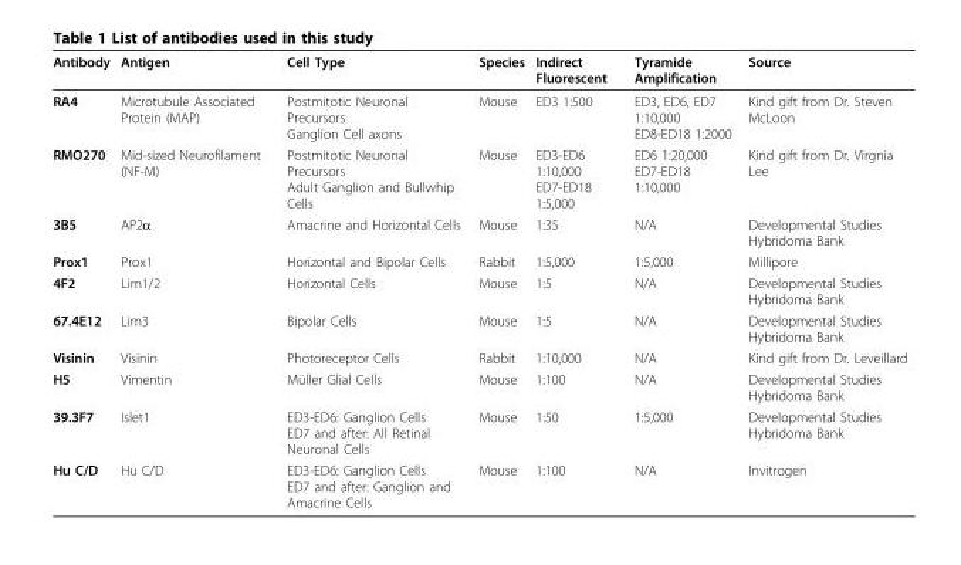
<table><thead><tr><td>Antibody</td><td>Antigen</td><td>Cell Type</td><td>Species</td><td>Indirect Fluorescent</td><td>Tyramide Amplification</td><td>Source</td></tr></thead><tbody><tr><td>RA4</td><td>Microtubule Associated Protein (MAP)</td><td>Postmitotic Neuronal Precursors Ganglion Cell axons</td><td>Mouse</td><td>ED3 1:500</td><td>ED3, ED6, ED7 1:10,000 ED8-ED18 1:2000</td><td>Kind gift from Dr. Steven McLoon</td></tr><tr><td>RMO270</td><td>Mid-sized Neurofilament (NF-M)</td><td>Postmitotic Neuronal Precursors Adult Ganglion and Bullwhip Cells</td><td>Mouse</td><td>ED3-ED6 1:10,000 ED7-ED18 1:5,000</td><td>ED6 1:20,000 ED7-ED18 1:10,000</td><td>Kind gift from Dr. Virgnia Lee</td></tr><tr><td>3B5</td><td>AP2α</td><td>Amacrine and Horizontal Cells</td><td>Mouse</td><td>1:35</td><td>N/A</td><td>Developmental Studies Hybridoma Bank</td></tr><tr><td>Prox1</td><td>Prox1</td><td>Horizontal and Bipolar Cells</td><td>Rabbit</td><td>1:5,000</td><td>1:5,000</td><td>Millipore</td></tr><tr><td>4F2</td><td>Lim1/2</td><td>Horizontal Cells</td><td>Mouse</td><td>1:5</td><td>N/A</td><td>Developmental Studies Hybridoma Bank</td></tr><tr><td>67.4E12</td><td>Lim3</td><td>Bipolar Cells</td><td>Mouse</td><td>1:5</td><td>N/A</td><td>Developmental Studies Hybridoma Bank</td></tr><tr><td>Visinin</td><td>Visinin</td><td>Photoreceptor Cells</td><td>Rabbit</td><td>1:10,000</td><td>N/A</td><td>Kind gift from Dr. Leveillard</td></tr><tr><td>H5</td><td>Vimentin</td><td>Müller Glial Cells</td><td>Mouse</td><td>1:100</td><td>N/A</td><td>Developmental Studies Hybridoma Bank</td></tr><tr><td>39.3F7</td><td>Islet1</td><td>ED3-ED6: Ganglion Cells ED7 and after: All Retinal Neuronal Cells</td><td>Mouse</td><td>1:50</td><td>1:5,000</td><td>Developmental Studies Hybridoma Bank</td></tr><tr><td>Hu C/D</td><td>Hu C/D</td><td>ED3-ED6: Ganglion Cells ED7 and after: Ganglion and Amacrine Cells</td><td>Mouse</td><td>1:100</td><td>N/A</td><td>Invitrogen</td></tr></tbody></table>